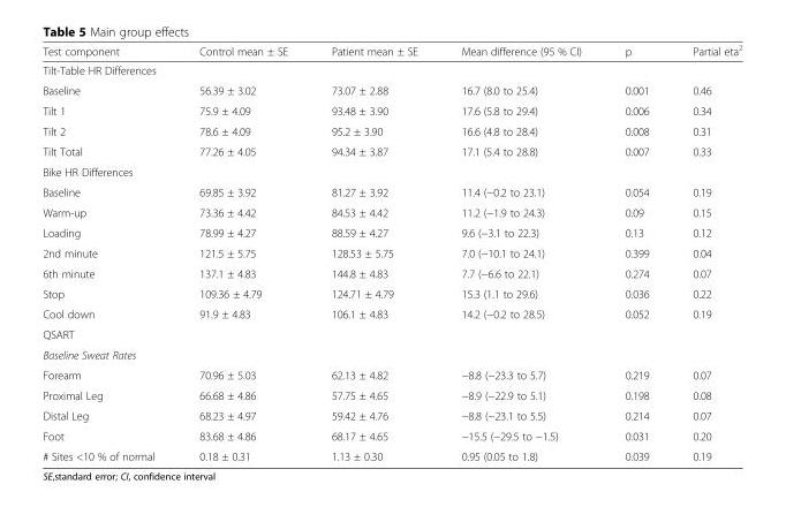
<table><thead><tr><td>Test component</td><td>Control mean ± SE</td><td>Patient mean ± SE</td><td>Mean difference (95 % CI)</td><td>p</td><td>Partial eta<sup>2</sup></td></tr></thead><tbody><tr><td colspan="6">Tilt-Table HR Differences</td></tr><tr><td>Baseline</td><td>56.39 ± 3.02</td><td>73.07 ± 2.88</td><td>16.7 (8.0 to 25.4)</td><td>0.001</td><td>0.46</td></tr><tr><td>Tilt 1</td><td>75.9 ± 4.09</td><td>93.48 ± 3.90</td><td>17.6 (5.8 to 29.4)</td><td>0.006</td><td>0.34</td></tr><tr><td>Tilt 2</td><td>78.6 ± 4.09</td><td>95.2 ± 3.90</td><td>16.6 (4.8 to 28.4)</td><td>0.008</td><td>0.31</td></tr><tr><td>Tilt Total</td><td>77.26 ± 4.05</td><td>94.34 ± 3.87</td><td>17.1 (5.4 to 28.8)</td><td>0.007</td><td>0.33</td></tr><tr><td colspan="6">Bike HR Differences</td></tr><tr><td>Baseline</td><td>69.85 ± 3.92</td><td>81.27 ± 3.92</td><td>11.4 (−0.2 to 23.1)</td><td>0.054</td><td>0.19</td></tr><tr><td>Warm-up</td><td>73.36 ± 4.42</td><td>84.53 ± 4.42</td><td>11.2 (−1.9 to 24.3)</td><td>0.09</td><td>0.15</td></tr><tr><td>Loading</td><td>78.99 ± 4.27</td><td>88.59 ± 4.27</td><td>9.6 (−3.1 to 22.3)</td><td>0.13</td><td>0.12</td></tr><tr><td>2nd minute</td><td>121.5 ± 5.75</td><td>128.53 ± 5.75</td><td>7.0 (−10.1 to 24.1)</td><td>0.399</td><td>0.04</td></tr><tr><td>6th minute</td><td>137.1 ± 4.83</td><td>144.8 ± 4.83</td><td>7.7 (−6.6 to 22.1)</td><td>0.274</td><td>0.07</td></tr><tr><td>Stop</td><td>109.36 ± 4.79</td><td>124.71 ± 4.79</td><td>15.3 (1.1 to 29.6)</td><td>0.036</td><td>0.22</td></tr><tr><td>Cool down</td><td>91.9 ± 4.83</td><td>106.1 ± 4.83</td><td>14.2 (−0.2 to 28.5)</td><td>0.052</td><td>0.19</td></tr><tr><td colspan="6">QSART</td></tr><tr><td colspan="6">Baseline Sweat Rates</td></tr><tr><td>Forearm</td><td>70.96 ± 5.03</td><td>62.13 ± 4.82</td><td>−8.8 (−23.3 to 5.7)</td><td>0.219</td><td>0.07</td></tr><tr><td>Proximal Leg</td><td>66.68 ± 4.86</td><td>57.75 ± 4.65</td><td>−8.9 (−22.9 to 5.1)</td><td>0.198</td><td>0.08</td></tr><tr><td>Distal Leg</td><td>68.23 ± 4.97</td><td>59.42 ± 4.76</td><td>−8.8 (−23.1 to 5.5)</td><td>0.214</td><td>0.07</td></tr><tr><td>Foot</td><td>83.68 ± 4.86</td><td>68.17 ± 4.65</td><td>−15.5 (−29.5 to −1.5)</td><td>0.031</td><td>0.20</td></tr><tr><td># Sites &lt;10 % of normal</td><td>0.18 ± 0.31</td><td>1.13 ± 0.30</td><td>0.95 (0.05 to 1.8)</td><td>0.039</td><td>0.19</td></tr></tbody></table>